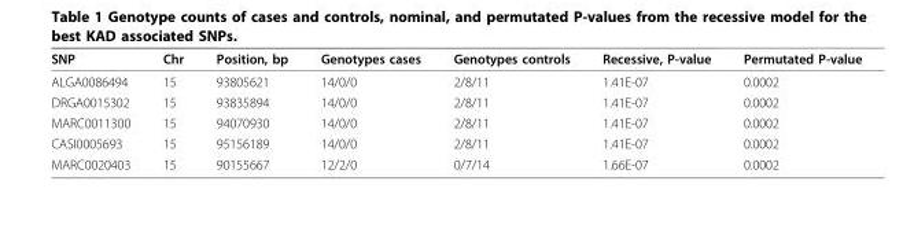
<table><thead><tr><td>SNP</td><td>Chr</td><td>Position, bp</td><td>Genotypes cases</td><td>Genotypes controls</td><td>Recessive, P-value</td><td>Permutated P-value</td></tr></thead><tbody><tr><td>ALGA0086494</td><td>15</td><td>93805621</td><td>14/0/0</td><td>2/8/11</td><td>1.41E-07</td><td>0.0002</td></tr><tr><td>DRGA0015302</td><td>15</td><td>93835894</td><td>14/0/0</td><td>2/8/11</td><td>1.41E-07</td><td>0.0002</td></tr><tr><td>MARC0011300</td><td>15</td><td>94070930</td><td>14/0/0</td><td>2/8/11</td><td>1.41E-07</td><td>0.0002</td></tr><tr><td>CASI0005693</td><td>15</td><td>95156189</td><td>14/0/0</td><td>2/8/11</td><td>1.41E-07</td><td>0.0002</td></tr><tr><td>MARC0020403</td><td>15</td><td>90155667</td><td>12/2/0</td><td>0/7/14</td><td>1.66E-07</td><td>0.0002</td></tr></tbody></table>